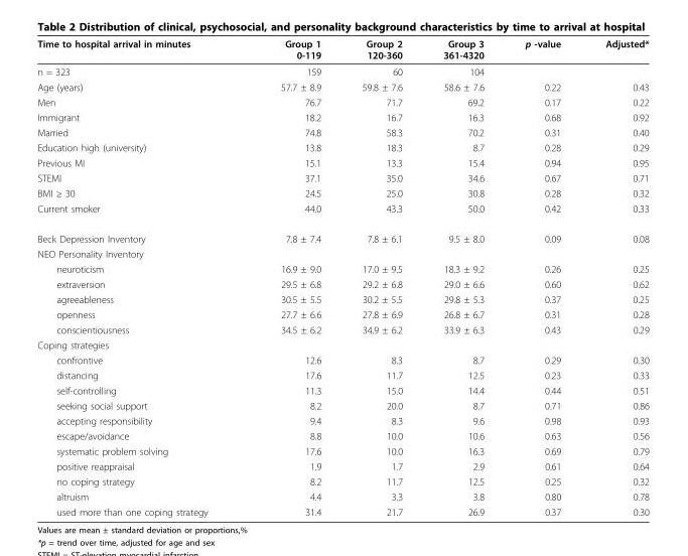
<table><thead><tr><td>Time to hospital arrival in minutes</td><td>Group 1 0-119</td><td>Group 2 120-360</td><td>Group 3 361-4320</td><td>p -value</td><td>Adjusted*</td></tr></thead><tbody><tr><td>n = 323</td><td>159</td><td>60</td><td>104</td><td></td><td></td></tr><tr><td>Age (years)</td><td>57.7 ± 8.9</td><td>59.8 ± 7.6</td><td>58.6 ± 7.6</td><td>0.22</td><td>0.43</td></tr><tr><td>Men</td><td>76.7</td><td>71.7</td><td>69.2</td><td>0.17</td><td>0.22</td></tr><tr><td>Immigrant</td><td>18.2</td><td>16.7</td><td>16.3</td><td>0.68</td><td>0.92</td></tr><tr><td>Married</td><td>74.8</td><td>58.3</td><td>70.2</td><td>0.31</td><td>0.40</td></tr><tr><td>Education high (university)</td><td>13.8</td><td>18.3</td><td>8.7</td><td>0.28</td><td>0.29</td></tr><tr><td>Previous MI</td><td>15.1</td><td>13.3</td><td>15.4</td><td>0.94</td><td>0.95</td></tr><tr><td>STEMI</td><td>37.1</td><td>35.0</td><td>34.6</td><td>0.67</td><td>0.71</td></tr><tr><td>BMI ≥ 30</td><td>24.5</td><td>25.0</td><td>30.8</td><td>0.28</td><td>0.32</td></tr><tr><td>Current smoker</td><td>44.0</td><td>43.3</td><td>50.0</td><td>0.42</td><td>0.33</td></tr><tr><td>Beck Depression Inventory</td><td>7.8 ± 7.4</td><td>7.8 ± 6.1</td><td>9.5 ± 8.0</td><td>0.09</td><td>0.08</td></tr><tr><td colspan="6">NEO Personality Inventory</td></tr><tr><td>neuroticism</td><td>16.9 ± 9.0</td><td>17.0 ± 9.5</td><td>18.3 ± 9.2</td><td>0.26</td><td>0.25</td></tr><tr><td>extraversion</td><td>29.5 ± 6.8</td><td>29.2 ± 6.8</td><td>29.0 ± 6.6</td><td>0.60</td><td>0.62</td></tr><tr><td>agreeableness</td><td>30.5 ± 5.5</td><td>30.2 ± 5.5</td><td>29.8 ± 5.3</td><td>0.37</td><td>0.25</td></tr><tr><td>openness</td><td>27.7 ± 6.6</td><td>27.8 ± 6.9</td><td>26.8 ± 6.7</td><td>0.31</td><td>0.28</td></tr><tr><td>conscientiousness</td><td>34.5 ± 6.2</td><td>34.9 ± 6.2</td><td>33.9 ± 6.3</td><td>0.43</td><td>0.29</td></tr><tr><td colspan="6">Coping strategies</td></tr><tr><td>confrontive</td><td>12.6</td><td>8.3</td><td>8.7</td><td>0.29</td><td>0.30</td></tr><tr><td>distancing</td><td>17.6</td><td>11.7</td><td>12.5</td><td>0.23</td><td>0.33</td></tr><tr><td>self-controlling</td><td>11.3</td><td>15.0</td><td>14.4</td><td>0.44</td><td>0.51</td></tr><tr><td>seeking social support</td><td>8.2</td><td>20.0</td><td>8.7</td><td>0.71</td><td>0.86</td></tr><tr><td>accepting responsibility</td><td>9.4</td><td>8.3</td><td>9.6</td><td>0.98</td><td>0.93</td></tr><tr><td>escape/avoidance</td><td>8.8</td><td>10.0</td><td>10.6</td><td>0.63</td><td>0.56</td></tr><tr><td>systematic problem solving</td><td>17.6</td><td>10.0</td><td>16.3</td><td>0.69</td><td>0.79</td></tr><tr><td>positive reappraisal</td><td>1.9</td><td>1.7</td><td>2.9</td><td>0.61</td><td>0.64</td></tr><tr><td>no coping strategy</td><td>8.2</td><td>11.7</td><td>12.5</td><td>0.25</td><td>0.32</td></tr><tr><td>altruism</td><td>4.4</td><td>3.3</td><td>3.8</td><td>0.80</td><td>0.78</td></tr><tr><td>used more than one coping strategy</td><td>31.4</td><td>21.7</td><td>26.9</td><td>0.37</td><td>0.30</td></tr></tbody></table>